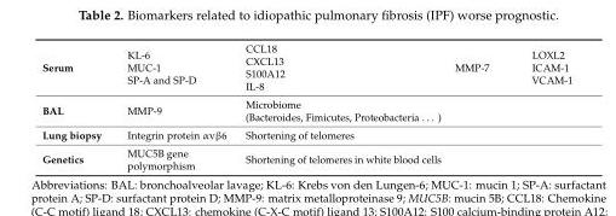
<table><tbody><tr><td>Serum</td><td>KL-6 MUC-1 SP-A and SP-D</td><td>CCL18 CXCL13 S100A12 IL-8</td><td>MMP-7</td><td>LOXL2 ICAM-1 VCAM-1</td></tr><tr><td>BAL</td><td>MMP-9</td><td>Microbiome (Bacteroides, Fimicutes, Proteobacteria . . . )</td><td></td><td></td></tr><tr><td>Lung biopsy</td><td>Integrin protein αvβ6</td><td>Shortening of telomeres</td><td></td><td></td></tr><tr><td>Genetics</td><td>MUC5B gene polymorphism</td><td>Shortening of telomeres in white blood cells</td><td></td><td></td></tr></tbody></table>